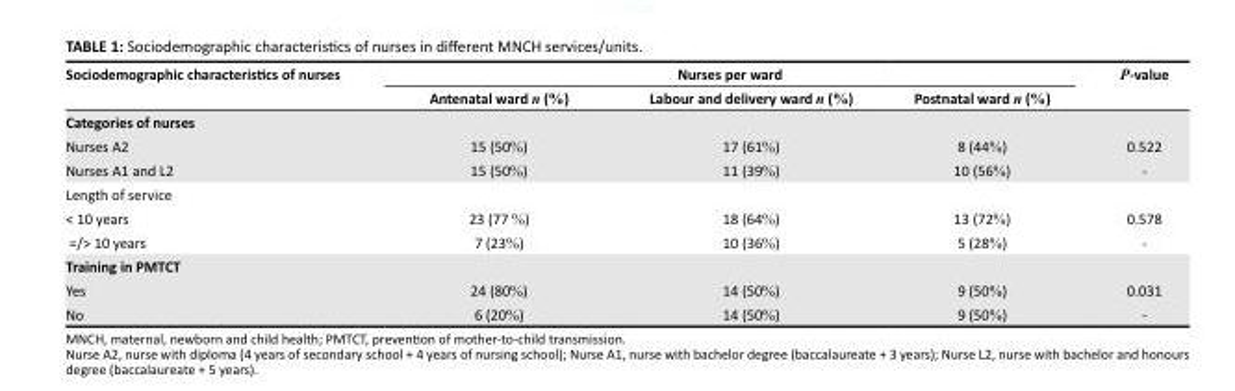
<table><thead><tr><td rowspan="2">Sociodemographic characteristics of nurses</td><td colspan="3">Nurses per ward</td><td rowspan="2">P-value</td></tr><tr><td>Antenatal ward n (%)</td><td>Labour and delivery ward n (%)</td><td>Postnatal ward n (%)</td></tr></thead><tbody><tr><td colspan="5">Categories of nurses</td></tr><tr><td>Nurses A2</td><td>15 (50%)</td><td>17 (61%)</td><td>8 (44%)</td><td>0.522</td></tr><tr><td>Nurses A1 and L2</td><td>15 (50%)</td><td>11 (39%)</td><td>10 (56%)</td><td>-</td></tr><tr><td colspan="5">Length of service</td></tr><tr><td>&lt; 10 years</td><td>23 (77 %)</td><td>18 (64%)</td><td>13 (72%)</td><td>0.578</td></tr><tr><td>=/&gt; 10 years</td><td>7 (23%)</td><td>10 (36%)</td><td>5 (28%)</td><td>-</td></tr><tr><td colspan="5">Training in PMTCT</td></tr><tr><td>Yes</td><td>24 (80%)</td><td>14 (50%)</td><td>9 (50%)</td><td>0.031</td></tr><tr><td>No</td><td>6 (20%)</td><td>14 (50%)</td><td>9 (50%)</td><td>-</td></tr></tbody></table>